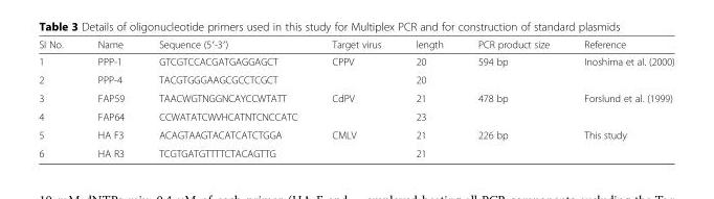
<table><thead><tr><td>SI No.</td><td>Name</td><td>Sequence (5′-3′)</td><td>Target virus</td><td>length</td><td>PCR product size</td><td>Reference</td></tr></thead><tbody><tr><td>1</td><td>PPP-1</td><td>GTCGTCCACGATGAGGAGCT</td><td>CPPV</td><td>20</td><td>594 bp</td><td>Inoshima et al. (2000)</td></tr><tr><td>2</td><td>PPP-4</td><td>TACGTGGGAAGCGCCTCGCT</td><td></td><td>20</td><td></td><td></td></tr><tr><td>3</td><td>FAP59</td><td>TAACWGTNGGNCAYCCWTATT</td><td>CdPV</td><td>21</td><td>478 bp</td><td>Forslund et al. (1999)</td></tr><tr><td>4</td><td>FAP64</td><td>CCWATATCWVHCATNTCNCCATC</td><td></td><td>23</td><td></td><td></td></tr><tr><td>5</td><td>HA F3</td><td>ACAGTAAGTACATCATCTGGA</td><td>CMLV</td><td>21</td><td>226 bp</td><td>This study</td></tr><tr><td>6</td><td>HA R3</td><td>TCGTGATGTTTTCTACAGTTG</td><td></td><td>21</td><td></td><td></td></tr></tbody></table>